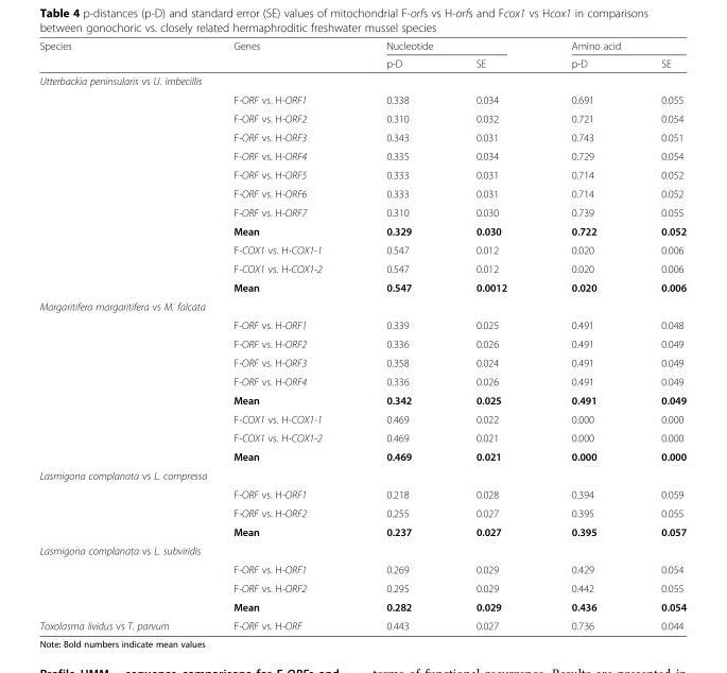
<table><thead><tr><td rowspan="2">Species</td><td rowspan="2">Genes</td><td colspan="2">Nucleotide</td><td colspan="2">Amino acid</td></tr><tr><td>p-D</td><td>SE</td><td>p-D</td><td>SE</td></tr></thead><tbody><tr><td colspan="6">Utterbackia peninsularis vs U. imbecillis</td></tr><tr><td rowspan="11"></td><td>F-ORF vs. H-ORF1</td><td>0.338</td><td>0.034</td><td>0.691</td><td>0.055</td></tr><tr><td>F-ORF vs. H-ORF2</td><td>0.310</td><td>0.032</td><td>0.721</td><td>0.054</td></tr><tr><td>F-ORF vs. H-ORF3</td><td>0.343</td><td>0.031</td><td>0.743</td><td>0.051</td></tr><tr><td>F-ORF vs. H-ORF4</td><td>0.335</td><td>0.034</td><td>0.729</td><td>0.054</td></tr><tr><td>F-ORF vs. H-ORF5</td><td>0.333</td><td>0.031</td><td>0.714</td><td>0.052</td></tr><tr><td>F-ORF vs. H-ORF6</td><td>0.333</td><td>0.031</td><td>0.714</td><td>0.052</td></tr><tr><td>F-ORF vs. H-ORF7</td><td>0.310</td><td>0.030</td><td>0.739</td><td>0.055</td></tr><tr><td>Mean</td><td>0.329</td><td>0.030</td><td>0.722</td><td>0.052</td></tr><tr><td>F-COX1 vs. H-COX1-1</td><td>0.547</td><td>0.012</td><td>0.020</td><td>0.006</td></tr><tr><td>F-COX1 vs. H-COX1-2</td><td>0.547</td><td>0.012</td><td>0.020</td><td>0.006</td></tr><tr><td>Mean</td><td>0.547</td><td>0.0012</td><td>0.020</td><td>0.006</td></tr><tr><td colspan="6">Margaritifera margaritifera vs M. falcata</td></tr><tr><td rowspan="8"></td><td>F-ORF vs. H-ORF1</td><td>0.339</td><td>0.025</td><td>0.491</td><td>0.048</td></tr><tr><td>F-ORF vs. H-ORF2</td><td>0.336</td><td>0.026</td><td>0.491</td><td>0.049</td></tr><tr><td>F-ORF vs. H-ORF3</td><td>0.358</td><td>0.024</td><td>0.491</td><td>0.049</td></tr><tr><td>F-ORF vs. H-ORF4</td><td>0.336</td><td>0.026</td><td>0.491</td><td>0.049</td></tr><tr><td>Mean</td><td>0.342</td><td>0.025</td><td>0.491</td><td>0.049</td></tr><tr><td>F-COX1 vs. H-COX1-1</td><td>0.469</td><td>0.022</td><td>0.000</td><td>0.000</td></tr><tr><td>F-COX1 vs. H-COX1-2</td><td>0.469</td><td>0.021</td><td>0.000</td><td>0.000</td></tr><tr><td>Mean</td><td>0.469</td><td>0.021</td><td>0.000</td><td>0.000</td></tr><tr><td colspan="6">Lasmigona complanata vs L. compressa</td></tr><tr><td rowspan="3"></td><td>F-ORF vs. H-ORF1</td><td>0.218</td><td>0.028</td><td>0.394</td><td>0.059</td></tr><tr><td>F-ORF vs. H-ORF2</td><td>0.255</td><td>0.027</td><td>0.395</td><td>0.055</td></tr><tr><td>Mean</td><td>0.237</td><td>0.027</td><td>0.395</td><td>0.057</td></tr><tr><td colspan="6">Lasmigona complanata vs L. subviridis</td></tr><tr><td rowspan="3"></td><td>F-ORF vs. H-ORF1</td><td>0.269</td><td>0.029</td><td>0.429</td><td>0.054</td></tr><tr><td>F-ORF vs. H-ORF2</td><td>0.295</td><td>0.029</td><td>0.442</td><td>0.055</td></tr><tr><td>Mean</td><td>0.282</td><td>0.029</td><td>0.436</td><td>0.054</td></tr><tr><td>Toxolasma lividus vs T. parvum</td><td>F-ORF vs. H-ORF</td><td>0.443</td><td>0.027</td><td>0.736</td><td>0.044</td></tr></tbody></table>